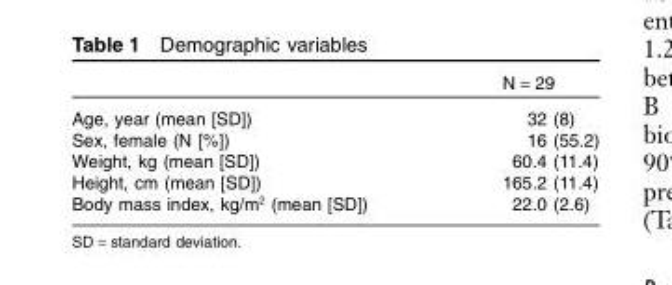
<table><thead><tr><td></td><td>N = 29</td></tr></thead><tbody><tr><td>Age, year (mean [SD])</td><td>32 (8)</td></tr><tr><td>Sex, female (N [%])</td><td>16 (55.2)</td></tr><tr><td>Weight, kg (mean [SD])</td><td>60.4 (11.4)</td></tr><tr><td>Height, cm (mean [SD])</td><td>165.2 (11.4)</td></tr><tr><td>Body mass index, kg/m<sup>2</sup> (mean [SD])</td><td>22.0 (2.6)</td></tr></tbody></table>